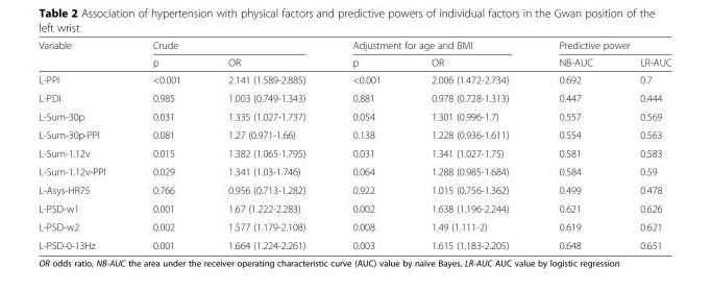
<table><thead><tr><td rowspan="2">Variable</td><td rowspan="2">Crude p</td><td rowspan="2">OR</td><td colspan="2">Adjustment for age and BMI</td><td colspan="2">Predictive power</td></tr><tr><td>p</td><td>OR</td><td>NB-AUC</td><td>LR-AUC</td></tr></thead><tbody><tr><td>L-PPI</td><td>&lt;0.001</td><td>2.141 (1.589-2.885)</td><td>&lt;0.001</td><td>2.006 (1.472-2.734)</td><td>0.692</td><td>0.7</td></tr><tr><td>L-PDI</td><td>0.985</td><td>1.003 (0.749-1.343)</td><td>0.881</td><td>0.978 (0.728-1.313)</td><td>0.447</td><td>0.444</td></tr><tr><td>L-Sum-30p</td><td>0.031</td><td>1.335 (1.027-1.737)</td><td>0.054</td><td>1.301 (0.996-1.7)</td><td>0.557</td><td>0.569</td></tr><tr><td>L-Sum-30p-PPI</td><td>0.081</td><td>1.27 (0.971-1.66)</td><td>0.138</td><td>1.228 (0.936-1.611)</td><td>0.554</td><td>0.563</td></tr><tr><td>L-Sum-1.12v</td><td>0.015</td><td>1.382 (1.065-1.795)</td><td>0.031</td><td>1.341 (1.027-1.75)</td><td>0.581</td><td>0.583</td></tr><tr><td>L-Sum-1.12v-PPI</td><td>0.029</td><td>1.341 (1.03-1.746)</td><td>0.064</td><td>1.288 (0.985-1.684)</td><td>0.584</td><td>0.59</td></tr><tr><td>L-Asys-HR75</td><td>0.766</td><td>0.956 (0.713-1.282)</td><td>0.922</td><td>1.015 (0.756-1.362)</td><td>0.499</td><td>0.478</td></tr><tr><td>L-PSD-w1</td><td>0.001</td><td>1.67 (1.222-2.283)</td><td>0.002</td><td>1.638 (1.196-2.244)</td><td>0.621</td><td>0.626</td></tr><tr><td>L-PSD-w2</td><td>0.002</td><td>1.577 (1.179-2.108)</td><td>0.008</td><td>1.49 (1.111-2)</td><td>0.619</td><td>0.621</td></tr><tr><td>L-PSD-0-13Hz</td><td>0.001</td><td>1.664 (1.224-2.261)</td><td>0.003</td><td>1.615 (1.183-2.205)</td><td>0.648</td><td>0.651</td></tr></tbody></table>